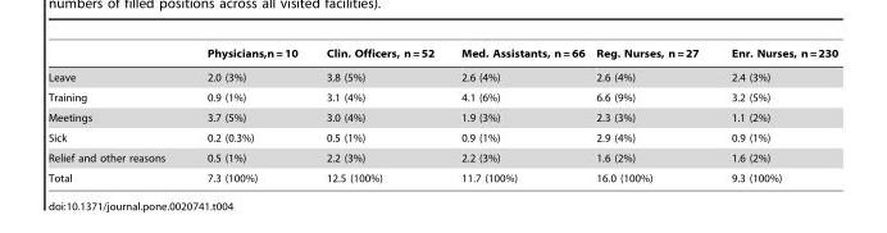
<table><thead><tr><td></td><td>Physicians,n = 10</td><td>Clin. Officers, n = 52</td><td>Med. Assistants, n = 66</td><td>Reg. Nurses, n = 27</td><td>Enr. Nurses, n = 230</td></tr></thead><tbody><tr><td>Leave</td><td>2.0 (3%)</td><td>3.8 (5%)</td><td>2.6 (4%)</td><td>2.6 (4%)</td><td>2.4 (3%)</td></tr><tr><td>Training</td><td>0.9 (1%)</td><td>3.1 (4%)</td><td>4.1 (6%)</td><td>6.6 (9%)</td><td>3.2 (5%)</td></tr><tr><td>Meetings</td><td>3.7 (5%)</td><td>3.0 (4%)</td><td>1.9 (3%)</td><td>2.3 (3%)</td><td>1.1 (2%)</td></tr><tr><td>Sick</td><td>0.2 (0.3%)</td><td>0.5 (1%)</td><td>0.9 (1%)</td><td>2.9 (4%)</td><td>0.9 (1%)</td></tr><tr><td>Relief and other reasons</td><td>0.5 (1%)</td><td>2.2 (3%)</td><td>2.2 (3%)</td><td>1.6 (2%)</td><td>1.6 (2%)</td></tr><tr><td>Total</td><td>7.3 (100%)</td><td>12.5 (100%)</td><td>11.7 (100%)</td><td>16.0 (100%)</td><td>9.3 (100%)</td></tr></tbody></table>